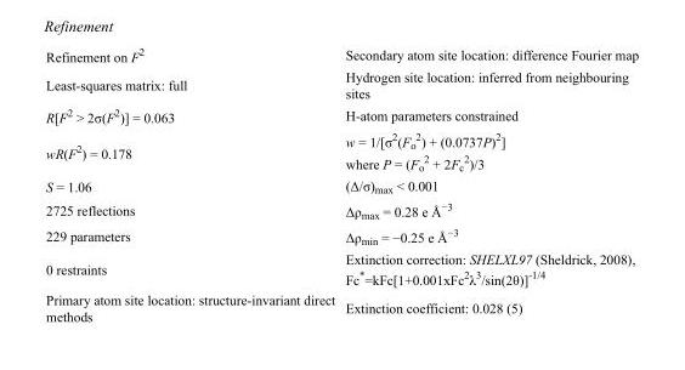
<table><tbody><tr><td>Refinement on F<sup>2</sup></td><td>Secondary atom site location: difference Fourier map</td></tr><tr><td>Least-squares matrix: full</td><td>Hydrogen site location: inferred from neighbouring sites</td></tr><tr><td>R[F<sup>2</sup> &gt; 2σ(F<sup>2</sup>)] = 0.063</td><td>H-atom parameters constrained</td></tr><tr><td>wR(F<sup>2</sup>) = 0.178</td><td>w = 1/[σ<sup>2</sup>(F<sub>o</sub> <sup>2</sup>) + (0.0737P)<sup>2</sup>] where P = (F<sub>o</sub> <sup>2</sup> + 2F<sub>c</sub> <sup>2</sup>)/3</td></tr><tr><td>S = 1.06</td><td>(Δ/σ)<sub>max</sub> &lt; 0.001</td></tr><tr><td>2725 reflections</td><td>Δρ<sub>max</sub> = 0.28 e Å<sup>−3</sup></td></tr><tr><td>229 parameters</td><td>Δρ<sub>min</sub> = −0.25 e Å<sup>−3</sup></td></tr><tr><td>0 restraints</td><td>Extinction correction: SHELXL97 (Sheldrick, 2008), Fc*=kFc[1+0.001xFc<sup>2</sup>λ<sup>3</sup>/sin(2θ)]<sup>-1/4</sup></td></tr><tr><td>Primary atom site location: structure-invariant direct methods</td><td>Extinction coefficient: 0.028 (5)</td></tr></tbody></table>